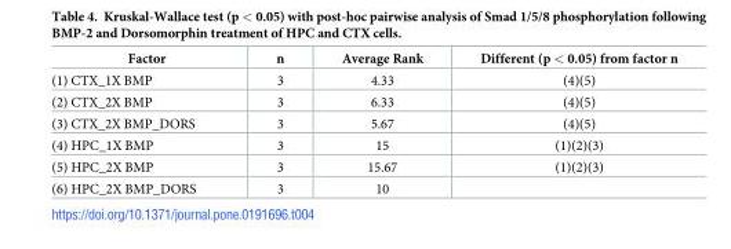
<table><thead><tr><td>Factor</td><td>n</td><td>Average Rank</td><td>Different (p &lt; 0.05) from factor n</td></tr></thead><tbody><tr><td>(1) CTX_1X BMP</td><td>3</td><td>4.33</td><td>(4)(5)</td></tr><tr><td>(2) CTX_2X BMP</td><td>3</td><td>6.33</td><td>(4)(5)</td></tr><tr><td>(3) CTX_2X BMP_DORS</td><td>3</td><td>5.67</td><td>(4)(5)</td></tr><tr><td>(4) HPC_1X BMP</td><td>3</td><td>15</td><td>(1)(2)(3)</td></tr><tr><td>(5) HPC_2X BMP</td><td>3</td><td>15.67</td><td>(1)(2)(3)</td></tr><tr><td>(6) HPC_2X BMP_DORS</td><td>3</td><td>10</td><td></td></tr></tbody></table>